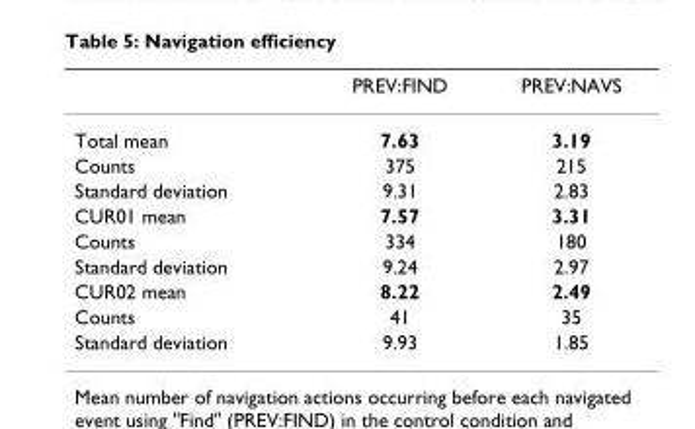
<table><thead><tr><td></td><td>PREV:FIND</td><td>PREV:NAVS</td></tr></thead><tbody><tr><td>Total mean</td><td>7.63</td><td>3.19</td></tr><tr><td>Counts</td><td>375</td><td>215</td></tr><tr><td>Standard deviation</td><td>9.31</td><td>2.83</td></tr><tr><td>CUR01 mean</td><td>7.57</td><td>3.31</td></tr><tr><td>Counts</td><td>334</td><td>180</td></tr><tr><td>Standard deviation</td><td>9.24</td><td>2.97</td></tr><tr><td>CUR02 mean</td><td>8.22</td><td>2.49</td></tr><tr><td>Counts</td><td>41</td><td>35</td></tr><tr><td>Standard deviation</td><td>9.93</td><td>1.85</td></tr></tbody></table>